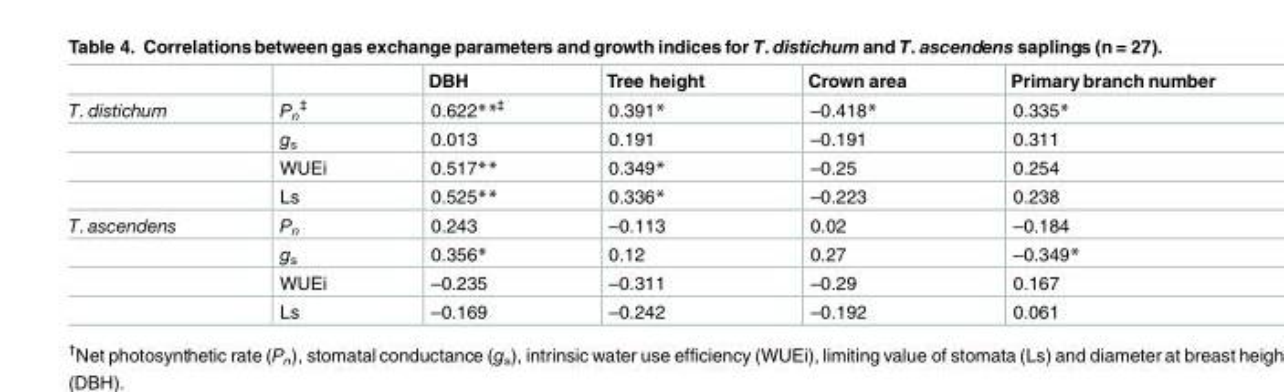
<table><thead><tr><td></td><td></td><td>DBH</td><td>Tree height</td><td>Crown area</td><td>Primary branch number</td></tr></thead><tbody><tr><td rowspan="4">T. distichum</td><td>P<sub>n</sub> <sup>‡</sup></td><td>0.622**<sup>‡</sup></td><td>0.391*</td><td>–0.418*</td><td>0.335*</td></tr><tr><td>g<sub>s</sub></td><td>0.013</td><td>0.191</td><td>–0.191</td><td>0.311</td></tr><tr><td>WUEi</td><td>0.517**</td><td>0.349*</td><td>–0.25</td><td>0.254</td></tr><tr><td>Ls</td><td>0.525**</td><td>0.336*</td><td>–0.223</td><td>0.238</td></tr><tr><td rowspan="4">T. ascendens</td><td>P<sub>n</sub></td><td>0.243</td><td>–0.113</td><td>0.02</td><td>–0.184</td></tr><tr><td>g<sub>s</sub></td><td>0.356*</td><td>0.12</td><td>0.27</td><td>–0.349*</td></tr><tr><td>WUEi</td><td>–0.235</td><td>–0.311</td><td>–0.29</td><td>0.167</td></tr><tr><td>Ls</td><td>–0.169</td><td>–0.242</td><td>–0.192</td><td>0.061</td></tr></tbody></table>